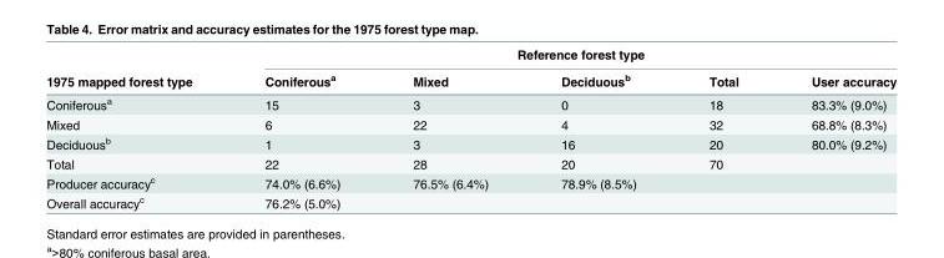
<table><thead><tr><td rowspan="2">1975 mapped forest type</td><td colspan="5">Reference forest type</td></tr><tr><td>Coniferous<sup>a</sup></td><td>Mixed</td><td>Deciduous<sup>b</sup></td><td>Total</td><td>User accuracy</td></tr></thead><tbody><tr><td>Coniferous<sup>a</sup></td><td>15</td><td>3</td><td>0</td><td>18</td><td>83.3% (9.0%)</td></tr><tr><td>Mixed</td><td>6</td><td>22</td><td>4</td><td>32</td><td>68.8% (8.3%)</td></tr><tr><td>Deciduous<sup>b</sup></td><td>1</td><td>3</td><td>16</td><td>20</td><td>80.0% (9.2%)</td></tr><tr><td>Total</td><td>22</td><td>28</td><td>20</td><td>70</td><td></td></tr><tr><td>Producer accuracy<sup>c</sup></td><td>74.0% (6.6%)</td><td>76.5% (6.4%)</td><td>78.9% (8.5%)</td><td></td><td></td></tr><tr><td>Overall accuracy<sup>c</sup></td><td>76.2% (5.0%)</td><td></td><td></td><td></td><td></td></tr></tbody></table>